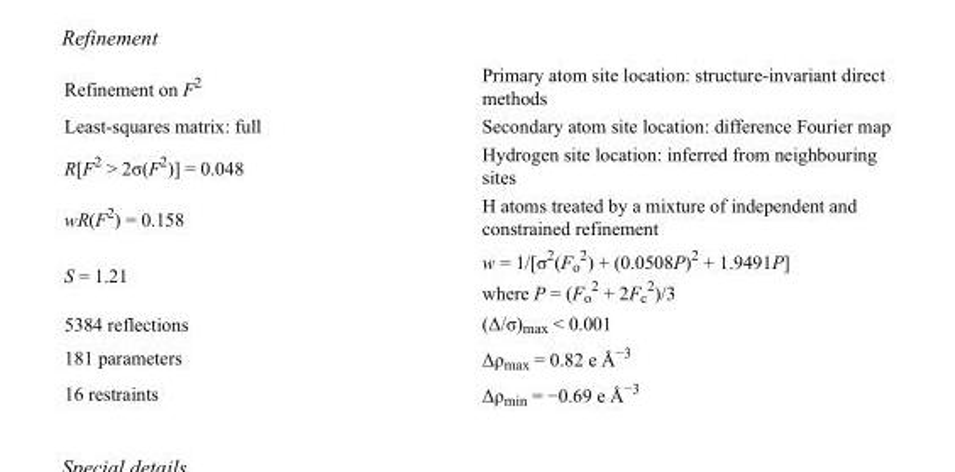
<table><tbody><tr><td>Refinement on F<sup>2</sup></td><td>Primary atom site location: structure-invariant direct methods</td></tr><tr><td>Least-squares matrix: full</td><td>Secondary atom site location: difference Fourier map</td></tr><tr><td>R[F<sup>2</sup> &gt; 2σ(F<sup>2</sup>)] = 0.048</td><td>Hydrogen site location: inferred from neighbouring sites</td></tr><tr><td>wR(F<sup>2</sup>) = 0.158</td><td>H atoms treated by a mixture of independent and constrained refinement</td></tr><tr><td>S = 1.21</td><td>w = 1/[σ<sup>2</sup>(F<sub>o</sub> <sup>2</sup>) + (0.0508P)<sup>2</sup> + 1.9491P] where P = (F<sub>o</sub> <sup>2</sup> + 2F<sub>c</sub> <sup>2</sup>)/3</td></tr><tr><td>5384 reflections</td><td>(Δ/σ)<sub>max</sub> &lt; 0.001</td></tr><tr><td>181 parameters</td><td>Δρ<sub>max</sub> = 0.82 e Å<sup>−3</sup></td></tr><tr><td>16 restraints</td><td>Δρmin = −0.69 e Å−3</td></tr></tbody></table>